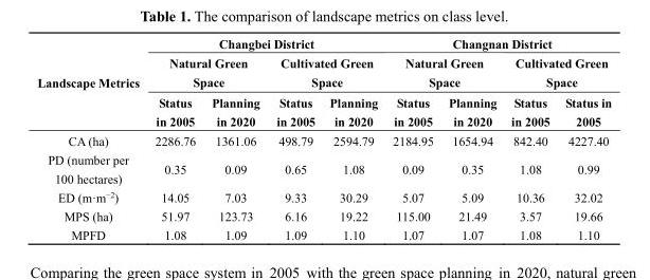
<table><thead><tr><td rowspan="3">Landscape Metrics</td><td colspan="4">Changbei District</td><td colspan="4">Changnan District</td></tr><tr><td colspan="2">Natural Green Space</td><td colspan="2">Cultivated Green Space</td><td colspan="2">Natural Green Space</td><td colspan="2">Cultivated Green Space</td></tr><tr><td>Status in 2005</td><td>Planning in 2020</td><td>Status in 2005</td><td>Planning in 2020</td><td>Status in 2005</td><td>Planning in 2020</td><td>Status in 2005</td><td>Status in 2005</td></tr></thead><tbody><tr><td>CA (ha)</td><td>2286.76</td><td>1361.06</td><td>498.79</td><td>2594.79</td><td>2184.95</td><td>1654.94</td><td>842.40</td><td>4227.40</td></tr><tr><td>PD (number per 100 hectares)</td><td>0.35</td><td>0.09</td><td>0.65</td><td>1.08</td><td>0.09</td><td>0.35</td><td>1.08</td><td>0.99</td></tr><tr><td>ED (m·m<sup>−2</sup>)</td><td>14.05</td><td>7.03</td><td>9.33</td><td>30.29</td><td>5.07</td><td>5.09</td><td>10.36</td><td>32.02</td></tr><tr><td>MPS (ha)</td><td>51.97</td><td>123.73</td><td>6.16</td><td>19.22</td><td>115.00</td><td>21.49</td><td>3.57</td><td>19.66</td></tr><tr><td>MPFD</td><td>1.08</td><td>1.09</td><td>1.09</td><td>1.10</td><td>1.07</td><td>1.07</td><td>1.08</td><td>1.10</td></tr></tbody></table>